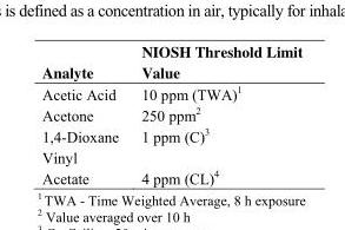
<table><thead><tr><td>Analyte</td><td>NIOSH Threshold Limit Value</td></tr></thead><tbody><tr><td>Acetic Acid</td><td>10 ppm (TWA)<sup>1</sup></td></tr><tr><td>Acetone</td><td>250 ppm<sup>2</sup></td></tr><tr><td>1,4-Dioxane</td><td>1 ppm (C)<sup>3</sup></td></tr><tr><td>Vinyl Acetate</td><td>4 ppm (CL)<sup>4</sup></td></tr></tbody></table>